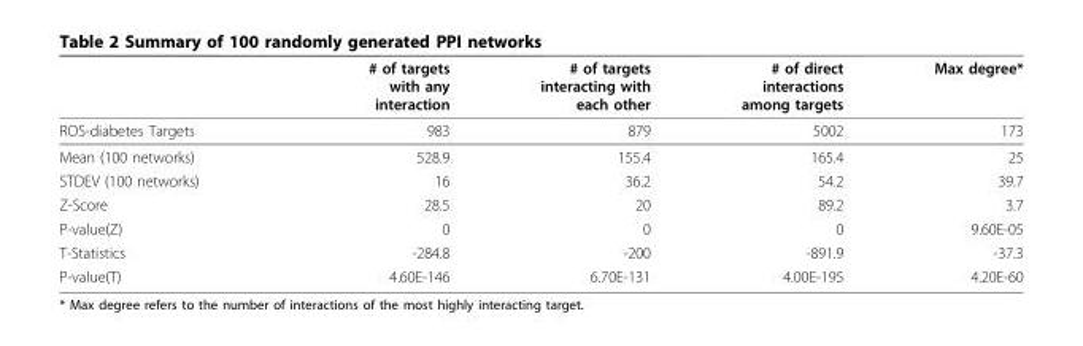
<table><thead><tr><td></td><td># of targets with any interaction</td><td># of targets interacting with each other</td><td># of direct interactions among targets</td><td>Max degree*</td></tr></thead><tbody><tr><td>ROS-diabetes Targets</td><td>983</td><td>879</td><td>5002</td><td>173</td></tr><tr><td>Mean (100 networks)</td><td>528.9</td><td>155.4</td><td>165.4</td><td>25</td></tr><tr><td>STDEV (100 networks)</td><td>16</td><td>36.2</td><td>54.2</td><td>39.7</td></tr><tr><td>Z-Score</td><td>28.5</td><td>20</td><td>89.2</td><td>3.7</td></tr><tr><td>P-value(Z)</td><td>0</td><td>0</td><td>0</td><td>9.60E-05</td></tr><tr><td>T-Statistics</td><td>-284.8</td><td>-200</td><td>-891.9</td><td>-37.3</td></tr><tr><td>P-value(T)</td><td>4.60E-146</td><td>6.70E-131</td><td>4.00E-195</td><td>4.20E-60</td></tr></tbody></table>